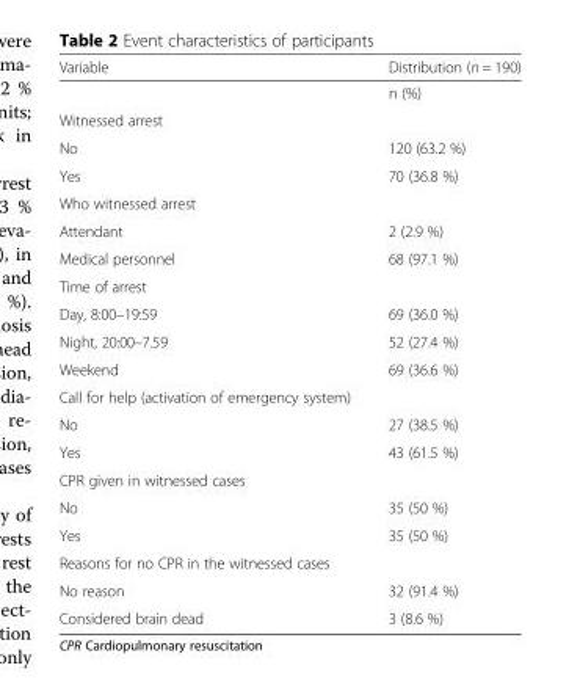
<table><thead><tr><td>Variable</td><td>Distribution (n = 190)</td></tr></thead><tbody><tr><td></td><td>n (%)</td></tr><tr><td colspan="2">Witnessed arrest</td></tr><tr><td>No</td><td>120 (63.2 %)</td></tr><tr><td>Yes</td><td>70 (36.8 %)</td></tr><tr><td colspan="2">Who witnessed arrest</td></tr><tr><td>Attendant</td><td>2 (2.9 %)</td></tr><tr><td>Medical personnel</td><td>68 (97.1 %)</td></tr><tr><td colspan="2">Time of arrest</td></tr><tr><td>Day, 8:00–19:59</td><td>69 (36.0 %)</td></tr><tr><td>Night, 20:00–7.59</td><td>52 (27.4 %)</td></tr><tr><td>Weekend</td><td>69 (36.6 %)</td></tr><tr><td colspan="2">Call for help (activation of emergency system)</td></tr><tr><td>No</td><td>27 (38.5 %)</td></tr><tr><td>Yes</td><td>43 (61.5 %)</td></tr><tr><td colspan="2">CPR given in witnessed cases</td></tr><tr><td>No</td><td>35 (50 %)</td></tr><tr><td>Yes</td><td>35 (50 %)</td></tr><tr><td colspan="2">Reasons for no CPR in the witnessed cases</td></tr><tr><td>No reason</td><td>32 (91.4 %)</td></tr><tr><td>Considered brain dead</td><td>3 (8.6 %)</td></tr></tbody></table>